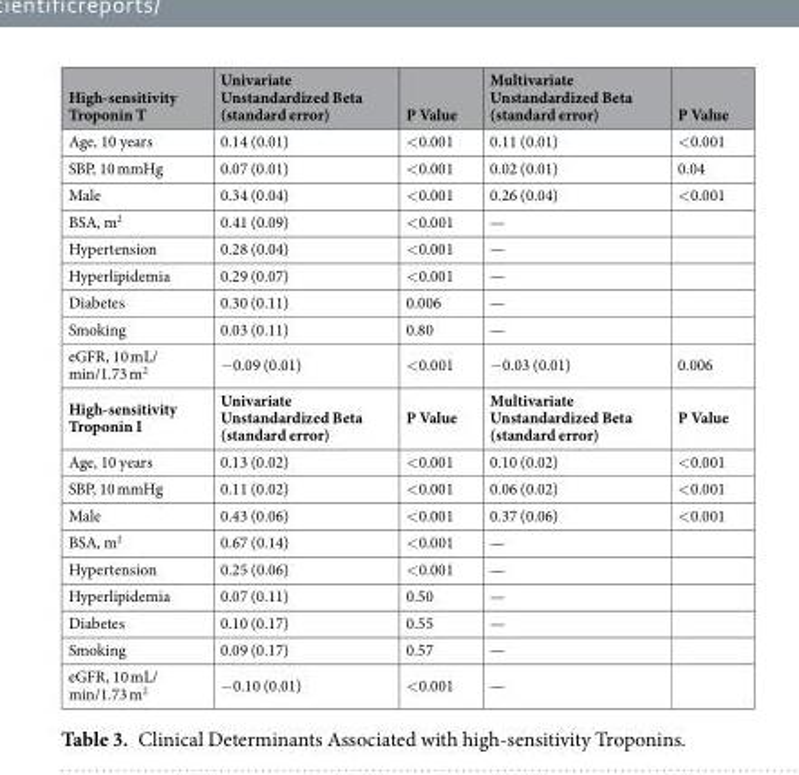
<table><thead><tr><td>High-sensitivity Troponin T</td><td>Univariate Unstandardized Beta (standard error)</td><td>P Value</td><td>Multivariate Unstandardized Beta (standard error)</td><td>P Value</td></tr></thead><tbody><tr><td>Age, 10 years</td><td>0.14 (0.01)</td><td>&lt;0.001</td><td>0.11 (0.01)</td><td>&lt;0.001</td></tr><tr><td>SBP, 10 mmHg</td><td>0.07 (0.01)</td><td>&lt;0.001</td><td>0.02 (0.01)</td><td>0.04</td></tr><tr><td>Male</td><td>0.34 (0.04)</td><td>&lt;0.001</td><td>0.26 (0.04)</td><td>&lt;0.001</td></tr><tr><td>BSA, m<sup>2</sup></td><td>0.41 (0.09)</td><td>&lt;0.001</td><td>—</td><td></td></tr><tr><td>Hypertension</td><td>0.28 (0.04)</td><td>&lt;0.001</td><td>—</td><td></td></tr><tr><td>Hyperlipidemia</td><td>0.29 (0.07)</td><td>&lt;0.001</td><td>—</td><td></td></tr><tr><td>Diabetes</td><td>0.30 (0.11)</td><td>0.006</td><td>—</td><td></td></tr><tr><td>Smoking</td><td>0.03 (0.11)</td><td>0.80</td><td>—</td><td></td></tr><tr><td>eGFR, 10 mL/ min/1.73 m<sup>2</sup></td><td>−0.09 (0.01)</td><td>&lt;0.001</td><td>−0.03 (0.01)</td><td>0.006</td></tr><tr><td>High-sensitivity Troponin I</td><td>Univariate Unstandardized Beta (standard error)</td><td>P Value</td><td>Multivariate Unstandardized Beta (standard error)</td><td>P Value</td></tr><tr><td>Age, 10 years</td><td>0.13 (0.02)</td><td>&lt;0.001</td><td>0.10 (0.02)</td><td>&lt;0.001</td></tr><tr><td>SBP, 10 mmHg</td><td>0.11 (0.02)</td><td>&lt;0.001</td><td>0.06 (0.02)</td><td>&lt;0.001</td></tr><tr><td>Male</td><td>0.43 (0.06)</td><td>&lt;0.001</td><td>0.37 (0.06)</td><td>&lt;0.001</td></tr><tr><td>BSA, m<sup>2</sup></td><td>0.67 (0.14)</td><td>&lt;0.001</td><td>—</td><td></td></tr><tr><td>Hypertension</td><td>0.25 (0.06)</td><td>&lt;0.001</td><td>—</td><td></td></tr><tr><td>Hyperlipidemia</td><td>0.07 (0.11)</td><td>0.50</td><td>—</td><td></td></tr><tr><td>Diabetes</td><td>0.10 (0.17)</td><td>0.55</td><td>—</td><td></td></tr><tr><td>Smoking</td><td>0.09 (0.17)</td><td>0.57</td><td>—</td><td></td></tr><tr><td>eGFR, 10 mL/ min/1.73 m<sup>2</sup></td><td>−0.10 (0.01)</td><td>&lt;0.001</td><td>—</td><td></td></tr></tbody></table>